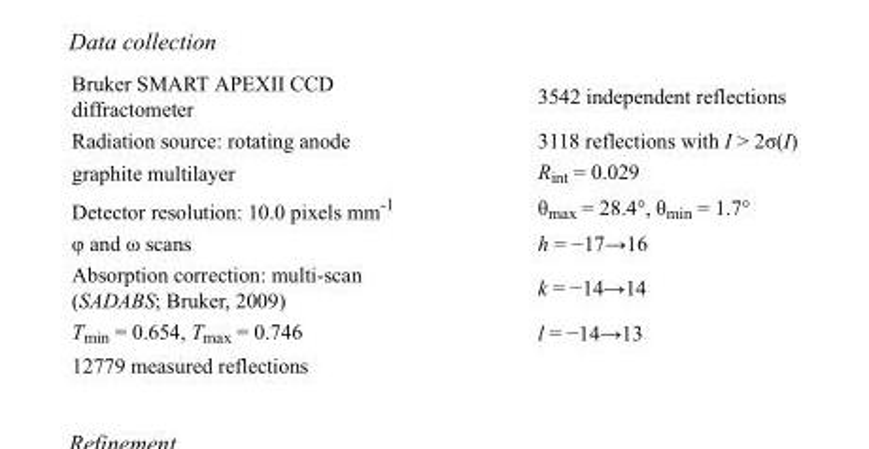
<table><tbody><tr><td>Bruker SMART APEXII CCD diffractometer</td><td>3542 independent reflections</td></tr><tr><td>Radiation source: rotating anode</td><td>3118 reflections with I &gt; 2σ(I)</td></tr><tr><td>graphite multilayer</td><td>R<sub>int</sub> = 0.029</td></tr><tr><td>Detector resolution: 10.0 pixels mm<sup>-1</sup></td><td>θ<sub>max</sub> = 28.4°, θ<sub>min</sub> = 1.7°</td></tr><tr><td>φ and ω scans</td><td>h = −17→16</td></tr><tr><td>Absorption correction: multi-scan (SADABS; Bruker, 2009)</td><td>k = −14→14</td></tr><tr><td>T<sub>min</sub> = 0.654, T<sub>max</sub> = 0.746</td><td>l = −14→13</td></tr><tr><td>12779 measured reflections</td><td></td></tr></tbody></table>